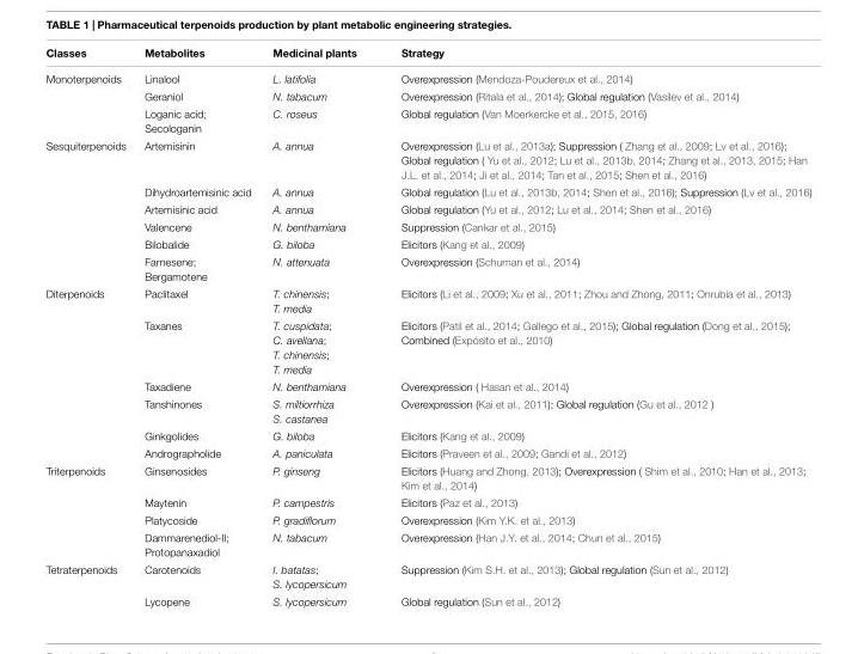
<table><thead><tr><td>Classes</td><td>Metabolites</td><td>Medicinal plants</td><td>Strategy</td></tr></thead><tbody><tr><td rowspan="3">Monoterpenoids</td><td>Linalool</td><td>L. latifolia</td><td>Overexpression (Mendoza-Poudereux et al., 2014)</td></tr><tr><td>Geraniol</td><td>N. tabacum</td><td>Overexpression (Ritala et al., 2014); Global regulation (Vasilev et al., 2014)</td></tr><tr><td>Loganic acid; Secologanin</td><td>C. roseus</td><td>Global regulation (Van Moerkercke et al., 2015, 2016)</td></tr><tr><td rowspan="6">Sesquiterpenoids</td><td>Artemisinin</td><td>A. annua</td><td>Overexpression (Lu et al., 2013a); Suppression ( Zhang et al., 2009; Lv et al., 2016); Global regulation ( Yu et al., 2012; Lu et al., 2013b, 2014; Zhang et al., 2013, 2015; Han J.L. et al., 2014; Ji et al., 2014; Tan et al., 2015; Shen et al., 2016)</td></tr><tr><td>Dihydroartemisinic acid</td><td>A. annua</td><td>Global regulation (Lu et al., 2013b, 2014; Shen et al., 2016); Suppression (Lv et al., 2016)</td></tr><tr><td>Artemisinic acid</td><td>A. annua</td><td>Global regulation (Yu et al., 2012; Lu et al., 2014; Shen et al., 2016)</td></tr><tr><td>Valencene</td><td>N. benthamiana</td><td>Suppression (Cankar et al., 2015)</td></tr><tr><td>Bilobalide</td><td>G. biloba</td><td>Elicitors (Kang et al., 2009)</td></tr><tr><td>Farnesene; Bergamotene</td><td>N. attenuata</td><td>Overexpression (Schuman et al., 2014)</td></tr><tr><td rowspan="6">Diterpenoids</td><td>Paclitaxel</td><td>T. chinensis; T. media</td><td>Elicitors (Li et al., 2009; Xu et al., 2011; Zhou and Zhong, 2011; Onrubia et al., 2013)</td></tr><tr><td>Taxanes</td><td>T. cuspidata; C. avellana; T. chinensis; T. media</td><td>Elicitors (Patil et al., 2014; Gallego et al., 2015); Global regulation (Dong et al., 2015); Combined (Expósito et al., 2010)</td></tr><tr><td>Taxadiene</td><td>N. benthamiana</td><td>Overexpression ( Hasan et al., 2014)</td></tr><tr><td>Tanshinones</td><td>S. miltiorrhiza S. castanea</td><td>Overexpression (Kai et al., 2011); Global regulation (Gu et al., 2012 )</td></tr><tr><td>Ginkgolides</td><td>G. biloba</td><td>Elicitors (Kang et al., 2009)</td></tr><tr><td>Andrographolide</td><td>A. paniculata</td><td>Elicitors (Praveen et al., 2009; Gandi et al., 2012)</td></tr><tr><td rowspan="4">Triterpenoids</td><td>Ginsenosides</td><td>P. ginseng</td><td>Elicitors (Huang and Zhong, 2013); Overexpression ( Shim et al., 2010; Han et al., 2013; Kim et al., 2014)</td></tr><tr><td>Maytenin</td><td>P. campestris</td><td>Elicitors (Paz et al., 2013)</td></tr><tr><td>Platycoside</td><td>P. gradiflorum</td><td>Overexpression (Kim Y.K. et al., 2013)</td></tr><tr><td>Dammarenediol-II; Protopanaxadiol</td><td>N. tabacum</td><td>Overexpression (Han J.Y. et al., 2014; Chun et al., 2015)</td></tr><tr><td rowspan="2">Tetraterpenoids</td><td>Carotenoids</td><td>I. batatas; S. lycopersicum</td><td>Suppression (Kim S.H. et al., 2013); Global regulation (Sun et al., 2012)</td></tr><tr><td>Lycopene</td><td>S. lycopersicum</td><td>Global regulation (Sun et al., 2012)</td></tr></tbody></table>